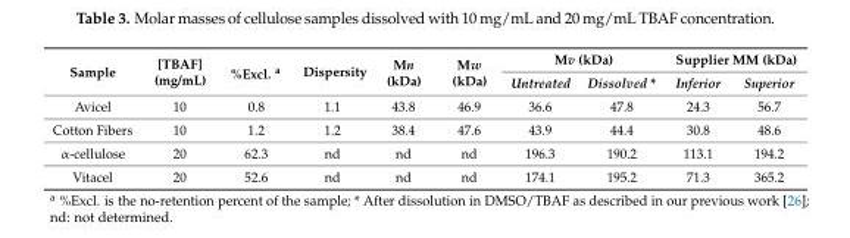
<table><thead><tr><td rowspan="2">Sample</td><td rowspan="2">[TBAF] (mg/mL)</td><td rowspan="2">%Excl. <sup>a</sup></td><td rowspan="2">Dispersity</td><td rowspan="2">Mn (kDa)</td><td rowspan="2">Mw (kDa)</td><td colspan="2">Mv (kDa)</td><td colspan="2">Supplier MM (kDa)</td></tr><tr><td>Untreated</td><td>Dissolved *</td><td>Inferior</td><td>Superior</td></tr></thead><tbody><tr><td>Avicel</td><td>10</td><td>0.8</td><td>1.1</td><td>43.8</td><td>46.9</td><td>36.6</td><td>47.8</td><td>24.3</td><td>56.7</td></tr><tr><td>Cotton Fibers</td><td>10</td><td>1.2</td><td>1.2</td><td>38.4</td><td>47.6</td><td>43.9</td><td>44.4</td><td>30.8</td><td>48.6</td></tr><tr><td>α-cellulose</td><td>20</td><td>62.3</td><td>nd</td><td>nd</td><td>nd</td><td>196.3</td><td>190.2</td><td>113.1</td><td>194.2</td></tr><tr><td>Vitacel</td><td>20</td><td>52.6</td><td>nd</td><td>nd</td><td>nd</td><td>174.1</td><td>195.2</td><td>71.3</td><td>365.2</td></tr></tbody></table>